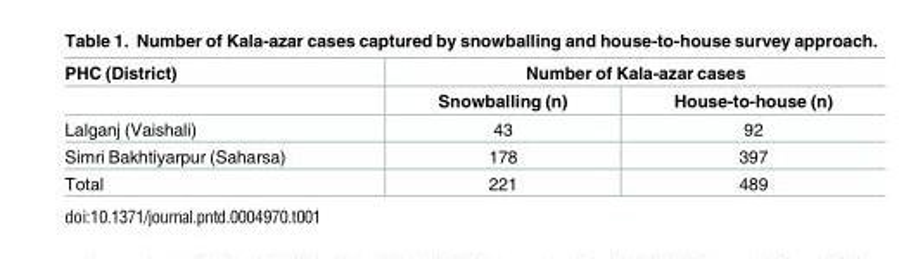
<table><thead><tr><td rowspan="2">PHC (District)</td><td colspan="2">Number of Kala-azar cases</td></tr><tr><td>Snowballing (n)</td><td>House-to-house (n)</td></tr></thead><tbody><tr><td>Lalganj (Vaishali)</td><td>43</td><td>92</td></tr><tr><td>Simri Bakhtiyarpur (Saharsa)</td><td>178</td><td>397</td></tr><tr><td>Total</td><td>221</td><td>489</td></tr></tbody></table>